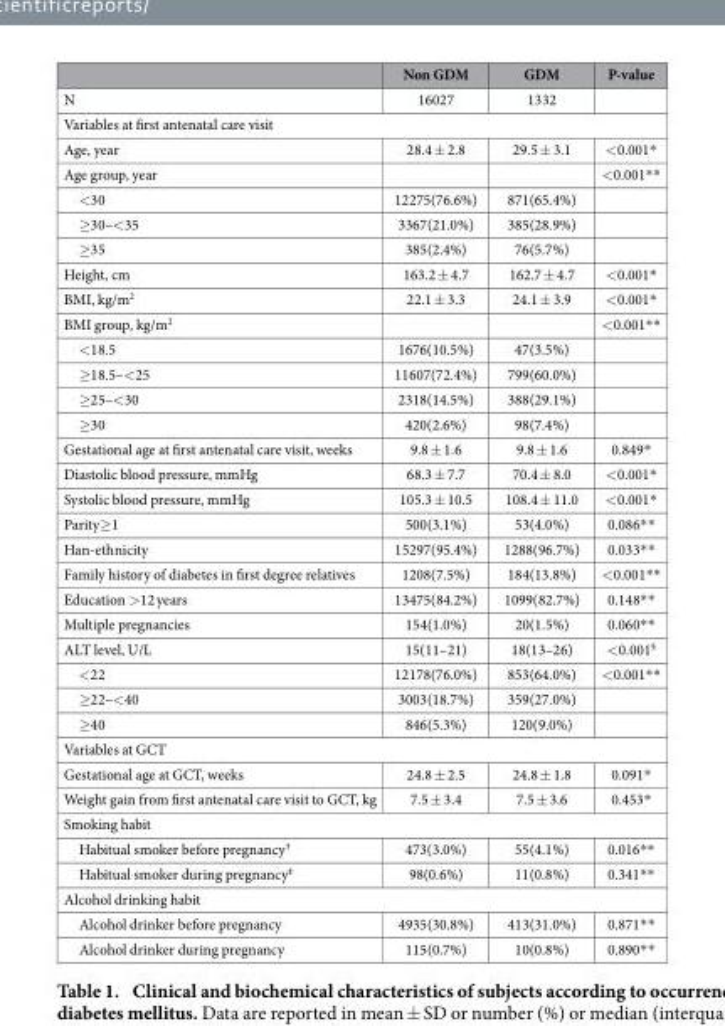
<table><thead><tr><td></td><td>Non GDM</td><td>GDM</td><td>P-value</td></tr></thead><tbody><tr><td>N</td><td>16027</td><td>1332</td><td></td></tr><tr><td colspan="4">Variables at first antenatal care visit</td></tr><tr><td>Age, year</td><td>28.4 ± 2.8</td><td>29.5 ± 3.1</td><td>&lt; 0.001*</td></tr><tr><td>Age group, year</td><td></td><td></td><td>&lt; 0.001**</td></tr><tr><td>&lt; 30</td><td>12275(76.6%)</td><td>871(65.4%)</td><td></td></tr><tr><td>≥ 30–&lt; 35</td><td>3367(21.0%)</td><td>385(28.9%)</td><td></td></tr><tr><td>≥ 35</td><td>385(2.4%)</td><td>76(5.7%)</td><td></td></tr><tr><td>Height, cm</td><td>163.2 ± 4.7</td><td>162.7 ± 4.7</td><td>&lt; 0.001*</td></tr><tr><td>BMI, kg/m<sup>2</sup></td><td>22.1 ± 3.3</td><td>24.1 ± 3.9</td><td>&lt; 0.001*</td></tr><tr><td>BMI group, kg/m<sup>2</sup></td><td></td><td></td><td>&lt; 0.001**</td></tr><tr><td>&lt; 18.5</td><td>1676(10.5%)</td><td>47(3.5%)</td><td></td></tr><tr><td>≥ 18.5–&lt; 25</td><td>11607(72.4%)</td><td>799(60.0%)</td><td></td></tr><tr><td>≥ 25–&lt; 30</td><td>2318(14.5%)</td><td>388(29.1%)</td><td></td></tr><tr><td>≥ 30</td><td>420(2.6%)</td><td>98(7.4%)</td><td></td></tr><tr><td>Gestational age at first antenatal care visit, weeks</td><td>9.8 ± 1.6</td><td>9.8 ± 1.6</td><td>0.849*</td></tr><tr><td>Diastolic blood pressure, mmHg</td><td>68.3 ± 7.7</td><td>70.4 ± 8.0</td><td>&lt; 0.001*</td></tr><tr><td>Systolic blood pressure, mmHg</td><td>105.3 ± 10.5</td><td>108.4 ± 11.0</td><td>&lt; 0.001*</td></tr><tr><td>Parity≥ 1</td><td>500(3.1%)</td><td>53(4.0%)</td><td>0.086**</td></tr><tr><td>Han-ethnicity</td><td>15297(95.4%)</td><td>1288(96.7%)</td><td>0.033**</td></tr><tr><td>Family history of diabetes in first degree relatives</td><td>1208(7.5%)</td><td>184(13.8%)</td><td>&lt; 0.001**</td></tr><tr><td>Education &gt; 12 years</td><td>13475(84.2%)</td><td>1099(82.7%)</td><td>0.148**</td></tr><tr><td>Multiple pregnancies</td><td>154(1.0%)</td><td>20(1.5%)</td><td>0.060**</td></tr><tr><td>ALT level, U/L</td><td>15(11–21)</td><td>18(13–26)</td><td>&lt; 0.001§</td></tr><tr><td>&lt; 22</td><td>12178(76.0%)</td><td>853(64.0%)</td><td>&lt; 0.001**</td></tr><tr><td>≥ 22–&lt; 40</td><td>3003(18.7%)</td><td>359(27.0%)</td><td></td></tr><tr><td>≥ 40</td><td>846(5.3%)</td><td>120(9.0%)</td><td></td></tr><tr><td colspan="4">Variables at GCT</td></tr><tr><td>Gestational age at GCT, weeks</td><td>24.8 ± 2.5</td><td>24.8 ± 1.8</td><td>0.091*</td></tr><tr><td>Weight gain from first antenatal care visit to GCT, kg</td><td>7.5 ± 3.4</td><td>7.5 ± 3.6</td><td>0.453*</td></tr><tr><td colspan="4">Smoking habit</td></tr><tr><td>Habitual smoker before pregnancy†</td><td>473(3.0%)</td><td>55(4.1%)</td><td>0.016**</td></tr><tr><td>Habitual smoker during pregnancy‡</td><td>98(0.6%)</td><td>11(0.8%)</td><td>0.341**</td></tr><tr><td colspan="4">Alcohol drinking habit</td></tr><tr><td>Alcohol drinker before pregnancy</td><td>4935(30.8%)</td><td>413(31.0%)</td><td>0.871**</td></tr><tr><td>Alcohol drinker during pregnancy</td><td>115(0.7%)</td><td>10(0.8%)</td><td>0.890**</td></tr></tbody></table>